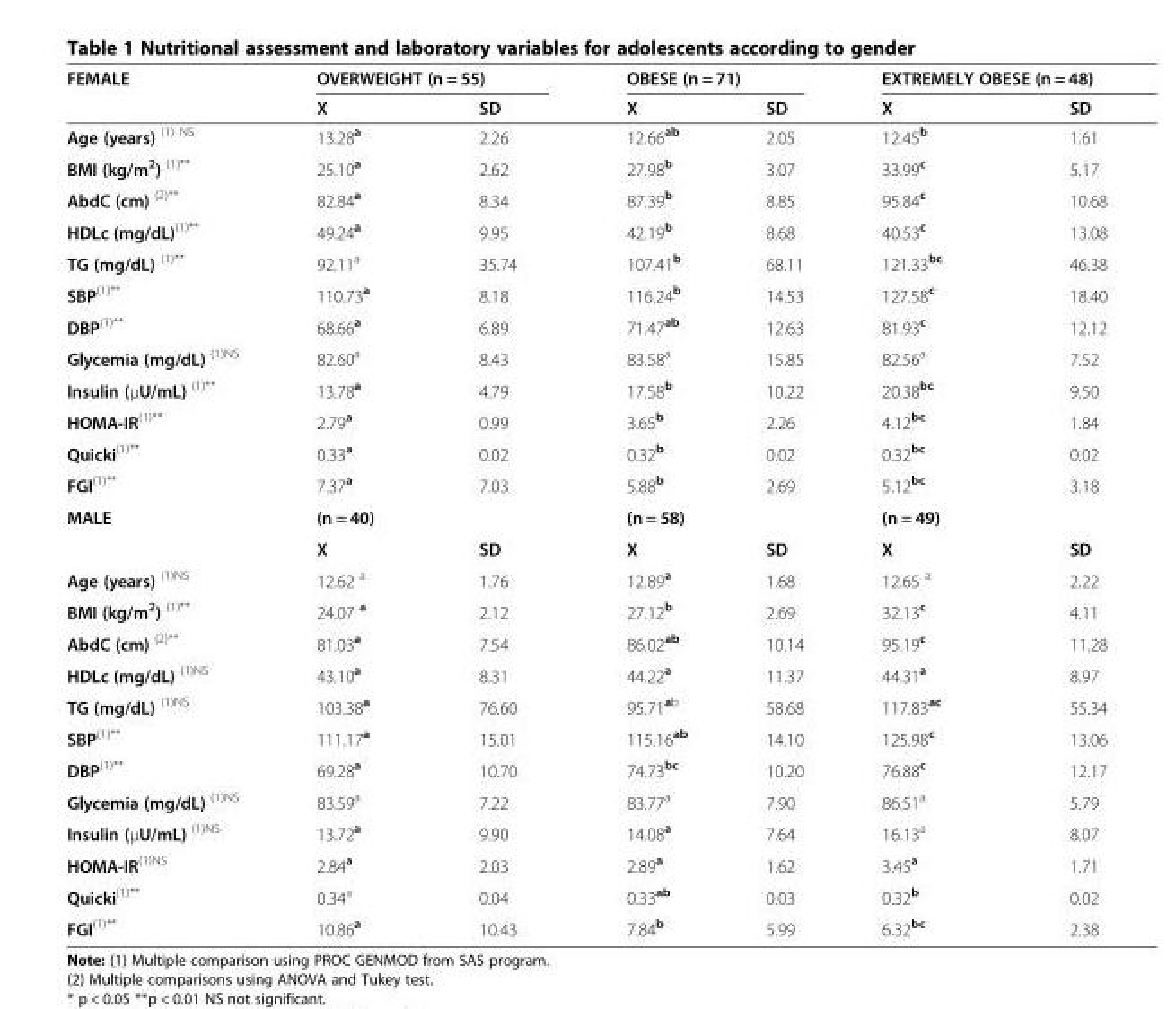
<table><thead><tr><td rowspan="2">FEMALE</td><td colspan="2">OVERWEIGHT (n = 55)</td><td colspan="2">OBESE (n = 71)</td><td colspan="2">EXTREMELY OBESE (n = 48)</td></tr><tr><td>X</td><td>SD</td><td>X</td><td>SD</td><td>X</td><td>SD</td></tr></thead><tbody><tr><td>Age (years) <sup>(1) NS</sup></td><td>13.28<sup>a</sup></td><td>2.26</td><td>12.66<sup>ab</sup></td><td>2.05</td><td>12.45<sup>b</sup></td><td>1.61</td></tr><tr><td>BMI (kg/m<sup>2</sup>) <sup>(1)**</sup></td><td>25.10<sup>a</sup></td><td>2.62</td><td>27.98<sup>b</sup></td><td>3.07</td><td>33.99<sup>c</sup></td><td>5.17</td></tr><tr><td>AbdC (cm) <sup>(2)**</sup></td><td>82.84<sup>a</sup></td><td>8.34</td><td>87.39<sup>b</sup></td><td>8.85</td><td>95.84<sup>c</sup></td><td>10.68</td></tr><tr><td>HDLc (mg/dL)<sup>(1)**</sup></td><td>49.24<sup>a</sup></td><td>9.95</td><td>42.19<sup>b</sup></td><td>8.68</td><td>40.53<sup>c</sup></td><td>13.08</td></tr><tr><td>TG (mg/dL) <sup>(1)**</sup></td><td>92.11<sup>a</sup></td><td>35.74</td><td>107.41<sup>b</sup></td><td>68.11</td><td>121.33<sup>bc</sup></td><td>46.38</td></tr><tr><td>SBP<sup>(1)**</sup></td><td>110.73<sup>a</sup></td><td>8.18</td><td>116.24<sup>b</sup></td><td>14.53</td><td>127.58<sup>c</sup></td><td>18.40</td></tr><tr><td>DBP<sup>(1)**</sup></td><td>68.66<sup>a</sup></td><td>6.89</td><td>71.47<sup>ab</sup></td><td>12.63</td><td>81.93<sup>c</sup></td><td>12.12</td></tr><tr><td>Glycemia (mg/dL) <sup>(1)NS</sup></td><td>82.60<sup>a</sup></td><td>8.43</td><td>83.58<sup>a</sup></td><td>15.85</td><td>82.56<sup>a</sup></td><td>7.52</td></tr><tr><td>Insulin (μU/mL) <sup>(1)**</sup></td><td>13.78<sup>a</sup></td><td>4.79</td><td>17.58<sup>b</sup></td><td>10.22</td><td>20.38<sup>bc</sup></td><td>9.50</td></tr><tr><td>HOMA-IR<sup>(1)**</sup></td><td>2.79<sup>a</sup></td><td>0.99</td><td>3.65<sup>b</sup></td><td>2.26</td><td>4.12<sup>bc</sup></td><td>1.84</td></tr><tr><td>Quicki<sup>(1)**</sup></td><td>0.33<sup>a</sup></td><td>0.02</td><td>0.32<sup>b</sup></td><td>0.02</td><td>0.32<sup>bc</sup></td><td>0.02</td></tr><tr><td>FGI<sup>(1)**</sup></td><td>7.37<sup>a</sup></td><td>7.03</td><td>5.88<sup>b</sup></td><td>2.69</td><td>5.12<sup>bc</sup></td><td>3.18</td></tr><tr><td rowspan="2">MALE</td><td colspan="2">(n = 40)</td><td colspan="2">(n = 58)</td><td colspan="2">(n = 49)</td></tr><tr><td>X</td><td>SD</td><td>X</td><td>SD</td><td>X</td><td>SD</td></tr><tr><td>Age (years) <sup>(1)NS</sup></td><td>12.62 <sup>a</sup></td><td>1.76</td><td>12.89<sup>a</sup></td><td>1.68</td><td>12.65 <sup>a</sup></td><td>2.22</td></tr><tr><td>BMI (kg/m<sup>2</sup>) <sup>(1)**</sup></td><td>24.07 <sup>a</sup></td><td>2.12</td><td>27.12<sup>b</sup></td><td>2.69</td><td>32.13<sup>c</sup></td><td>4.11</td></tr><tr><td>AbdC (cm) <sup>(2)**</sup></td><td>81.03<sup>a</sup></td><td>7.54</td><td>86.02<sup>ab</sup></td><td>10.14</td><td>95.19<sup>c</sup></td><td>11.28</td></tr><tr><td>HDLc (mg/dL) <sup>(1)NS</sup></td><td>43.10<sup>a</sup></td><td>8.31</td><td>44.22<sup>a</sup></td><td>11.37</td><td>44.31<sup>a</sup></td><td>8.97</td></tr><tr><td>TG (mg/dL) <sup>(1)NS</sup></td><td>103.38<sup>a</sup></td><td>76.60</td><td>95.71<sup>ab</sup></td><td>58.68</td><td>117.83<sup>ac</sup></td><td>55.34</td></tr><tr><td>SBP<sup>(1)**</sup></td><td>111.17<sup>a</sup></td><td>15.01</td><td>115.16<sup>ab</sup></td><td>14.10</td><td>125.98<sup>c</sup></td><td>13.06</td></tr><tr><td>DBP<sup>(1)**</sup></td><td>69.28<sup>a</sup></td><td>10.70</td><td>74.73<sup>bc</sup></td><td>10.20</td><td>76.88<sup>c</sup></td><td>12.17</td></tr><tr><td>Glycemia (mg/dL) <sup>(1)NS</sup></td><td>83.59<sup>a</sup></td><td>7.22</td><td>83.77<sup>a</sup></td><td>7.90</td><td>86.51<sup>a</sup></td><td>5.79</td></tr><tr><td>Insulin (μU/mL) <sup>(1)NS</sup></td><td>13.72<sup>a</sup></td><td>9.90</td><td>14.08<sup>a</sup></td><td>7.64</td><td>16.13<sup>a</sup></td><td>8.07</td></tr><tr><td>HOMA-IR<sup>(1)NS</sup></td><td>2.84<sup>a</sup></td><td>2.03</td><td>2.89<sup>a</sup></td><td>1.62</td><td>3.45<sup>a</sup></td><td>1.71</td></tr><tr><td>Quicki<sup>(1)**</sup></td><td>0.34<sup>a</sup></td><td>0.04</td><td>0.33<sup>ab</sup></td><td>0.03</td><td>0.32<sup>b</sup></td><td>0.02</td></tr><tr><td>FGI<sup>(1)**</sup></td><td>10.86<sup>a</sup></td><td>10.43</td><td>7.84<sup>b</sup></td><td>5.99</td><td>6.32<sup>bc</sup></td><td>2.38</td></tr></tbody></table>